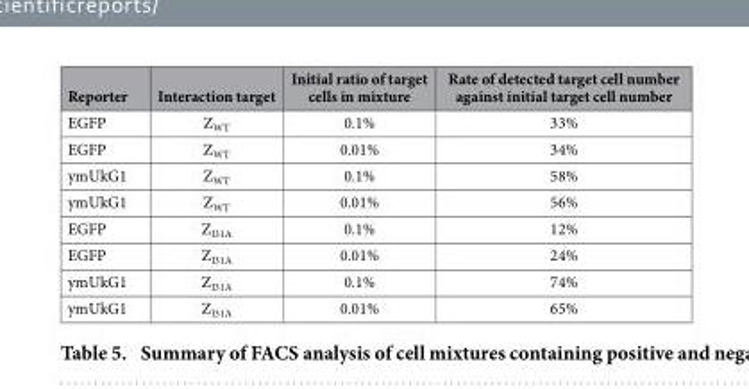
<table><thead><tr><td>Reporter</td><td>Interaction target</td><td>Initial ratio of target cells in mixture</td><td>Rate of detected target cell number against initial target cell number</td></tr></thead><tbody><tr><td>EGFP</td><td>Z<sub>WT</sub></td><td>0.1%</td><td>33%</td></tr><tr><td>EGFP</td><td>Z<sub>WT</sub></td><td>0.01%</td><td>34%</td></tr><tr><td>ymUkG1</td><td>Z<sub>WT</sub></td><td>0.1%</td><td>58%</td></tr><tr><td>ymUkG1</td><td>Z<sub>WT</sub></td><td>0.01%</td><td>56%</td></tr><tr><td>EGFP</td><td>Z<sub>I31A</sub></td><td>0.1%</td><td>12%</td></tr><tr><td>EGFP</td><td>Z<sub>I31A</sub></td><td>0.01%</td><td>24%</td></tr><tr><td>ymUkG1</td><td>Z<sub>I31A</sub></td><td>0.1%</td><td>74%</td></tr><tr><td>ymUkG1</td><td>Z<sub>I31A</sub></td><td>0.01%</td><td>65%</td></tr></tbody></table>